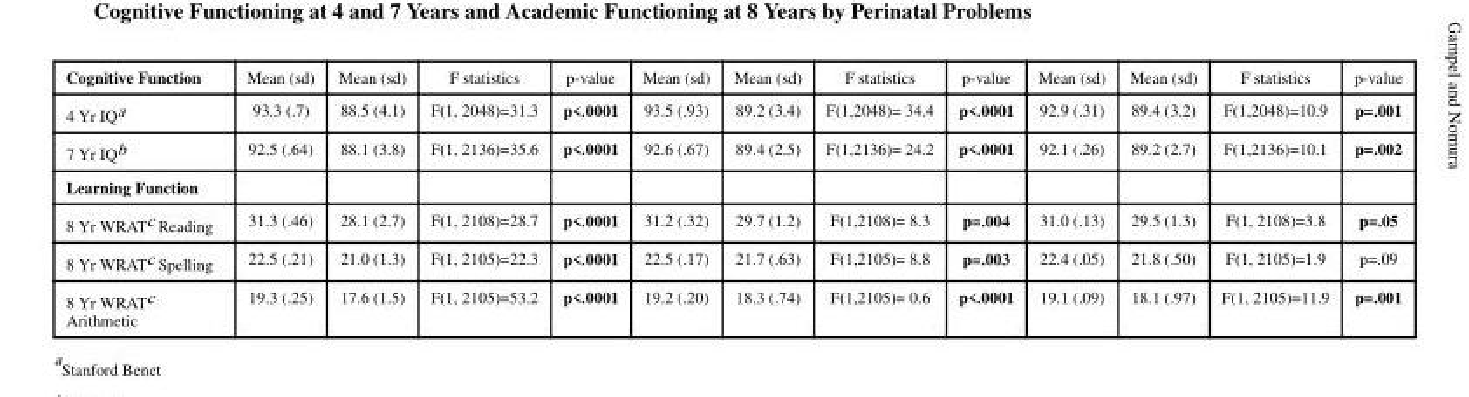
<table><tbody><tr><td>Cognitive Function</td><td>Mean (sd)</td><td>Mean (sd)</td><td>F statistics</td><td>p-value</td><td>Mean (sd)</td><td>Mean (sd)</td><td>F statistics</td><td>p-value</td><td>Mean (sd)</td><td>Mean (sd)</td><td>F statistics</td><td>p-value</td></tr><tr><td>4 Yr IQ<sup>a</sup></td><td>93.3 (.7)</td><td>88.5 (4.1)</td><td>F(1, 2048)=31.3</td><td>p&lt;.0001</td><td>93.5 (.93)</td><td>89.2 (3.4)</td><td>F(1,2048)= 34.4</td><td>p&lt;.0001</td><td>92.9 (.31)</td><td>89.4 (3.2)</td><td>F(1,2048)=10.9</td><td>p=.001</td></tr><tr><td>7 Yr IQ<sup>b</sup></td><td>92.5 (.64)</td><td>88.1 (3.8)</td><td>F(1, 2136)=35.6</td><td>p&lt;.0001</td><td>92.6 (.67)</td><td>89.4 (2.5)</td><td>F(1,2136)= 24.2</td><td>p&lt;.0001</td><td>92.1 (.26)</td><td>89.2 (2.7)</td><td>F(1,2136)=10.1</td><td>p=.002</td></tr><tr><td colspan="13">Learning Function</td></tr><tr><td>8 Yr WRAT<sup>c</sup> Reading</td><td>31.3 (.46)</td><td>28.1 (2.7)</td><td>F(1, 2108)=28.7</td><td>p&lt;.0001</td><td>31.2 (.32)</td><td>29.7 (1.2)</td><td>F(1,2108)= 8.3</td><td>p=.004</td><td>31.0 (.13)</td><td>29.5 (1.3)</td><td>F(1, 2108)=3.8</td><td>p=.05</td></tr><tr><td>8 Yr WRAT<sup>c</sup> Spelling</td><td>22.5 (.21)</td><td>21.0 (1.3)</td><td>F(1, 2105)=22.3</td><td>p&lt;.0001</td><td>22.5 (.17)</td><td>21.7 (.63)</td><td>F(1,2105)= 8.8</td><td>p=.003</td><td>22.4 (.05)</td><td>21.8 (.50)</td><td>F(1, 2105)=1.9</td><td>p=.09</td></tr><tr><td>8 Yr WRAT<sup>c</sup> Arithmetic</td><td>19.3 (.25)</td><td>17.6 (1.5)</td><td>F(1, 2105)=53.2</td><td>p&lt;.0001</td><td>19.2 (.20)</td><td>18.3 (.74)</td><td>F(1,2105)= 0.6</td><td>p&lt;.0001</td><td>19.1 (.09)</td><td>18.1 (.97)</td><td>F(1, 2105)=11.9</td><td>p=.001</td></tr></tbody></table>